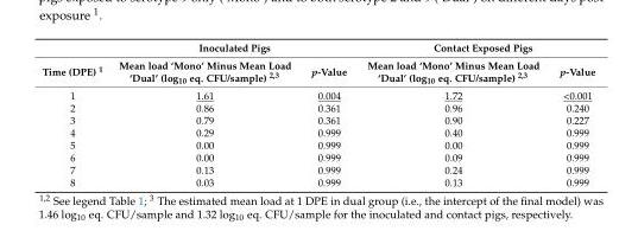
<table><thead><tr><td rowspan="2">Time (DPE) <sup>1</sup></td><td colspan="2">Inoculated Pigs</td><td colspan="2">Contact Exposed Pigs</td></tr><tr><td>Mean load ‘Mono’ Minus Mean Load ‘Dual’ (log<sub>10</sub> eq. CFU/sample) <sup>2,3</sup></td><td>p-Value</td><td>Mean load ‘Mono’ Minus Mean Load ‘Dual’ (log<sub>10</sub> eq. CFU/sample) <sup>2,3</sup></td><td>p-Value</td></tr></thead><tbody><tr><td>1</td><td>1.61</td><td>0.004</td><td>1.72</td><td>&lt;0.001</td></tr><tr><td>2</td><td>0.86</td><td>0.361</td><td>0.96</td><td>0.240</td></tr><tr><td>3</td><td>0.79</td><td>0.361</td><td>0.90</td><td>0.227</td></tr><tr><td>4</td><td>0.29</td><td>0.999</td><td>0.40</td><td>0.999</td></tr><tr><td>5</td><td>0.00</td><td>0.999</td><td>0.00</td><td>0.999</td></tr><tr><td>6</td><td>0.00</td><td>0.999</td><td>0.09</td><td>0.999</td></tr><tr><td>7</td><td>0.13</td><td>0.999</td><td>0.24</td><td>0.999</td></tr><tr><td>8</td><td>0.03</td><td>0.999</td><td>0.13</td><td>0.999</td></tr></tbody></table>